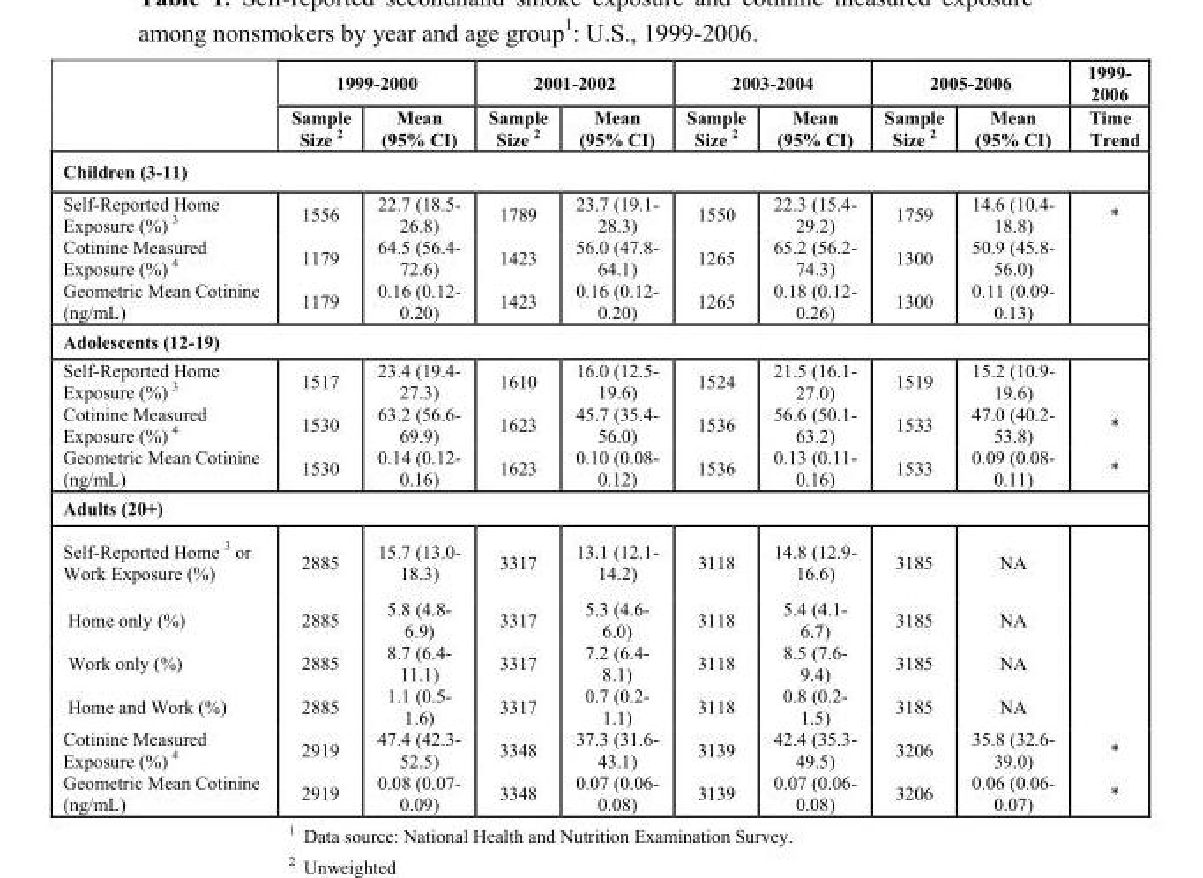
<table><thead><tr><td rowspan="2"></td><td colspan="2">1999-2000</td><td colspan="2">2001-2002</td><td colspan="2">2003-2004</td><td colspan="2">2005-2006</td><td rowspan="2">1999- 2006 Time Trend</td></tr><tr><td>Sample Size <sup>2</sup></td><td>Mean (95% CI)</td><td>Sample Size <sup>2</sup></td><td>Mean (95% CI)</td><td>Sample Size <sup>2</sup></td><td>Mean (95% CI)</td><td>Sample Size <sup>2</sup></td><td>Mean (95% CI)</td></tr></thead><tbody><tr><td colspan="10">Children (3-11)</td></tr><tr><td>Self-Reported Home Exposure (%) 3</td><td>1556</td><td>22.7 (18.5- 26.8)</td><td>1789</td><td>23.7 (19.1- 28.3)</td><td>1550</td><td>22.3 (15.4- 29.2)</td><td>1759</td><td>14.6 (10.4- 18.8)</td><td>*</td></tr><tr><td>Cotinine Measured Exposure (%) 4</td><td>1179</td><td>64.5 (56.4- 72.6)</td><td>1423</td><td>56.0 (47.8- 64.1)</td><td>1265</td><td>65.2 (56.2- 74.3)</td><td>1300</td><td>50.9 (45.8- 56.0)</td><td></td></tr><tr><td>Geometric Mean Cotinine (ng/mL)</td><td>1179</td><td>0.16 (0.12- 0.20)</td><td>1423</td><td>0.16 (0.12- 0.20)</td><td>1265</td><td>0.18 (0.12- 0.26)</td><td>1300</td><td>0.11 (0.09- 0.13)</td><td></td></tr><tr><td colspan="10">Adolescents (12-19)</td></tr><tr><td>Self-Reported Home Exposure (%) 3</td><td>1517</td><td>23.4 (19.4- 27.3)</td><td>1610</td><td>16.0 (12.5- 19.6)</td><td>1524</td><td>21.5 (16.1- 27.0)</td><td>1519</td><td>15.2 (10.9- 19.6)</td><td></td></tr><tr><td>Cotinine Measured Exposure (%) 4</td><td>1530</td><td>63.2 (56.6- 69.9)</td><td>1623</td><td>45.7 (35.4- 56.0)</td><td>1536</td><td>56.6 (50.1- 63.2)</td><td>1533</td><td>47.0 (40.2- 53.8)</td><td>*</td></tr><tr><td>Geometric Mean Cotinine (ng/mL)</td><td>1530</td><td>0.14 (0.12- 0.16)</td><td>1623</td><td>0.10 (0.08- 0.12)</td><td>1536</td><td>0.13 (0.11- 0.16)</td><td>1533</td><td>0.09 (0.08- 0.11)</td><td>*</td></tr><tr><td colspan="10">Adults (20+)</td></tr><tr><td>Self-Reported Home 3 or Work Exposure (%)</td><td>2885</td><td>15.7 (13.0- 18.3)</td><td>3317</td><td>13.1 (12.1- 14.2)</td><td>3118</td><td>14.8 (12.9- 16.6)</td><td>3185</td><td>NA</td><td></td></tr><tr><td>Home only (%)</td><td>2885</td><td>5.8 (4.8- 6.9)</td><td>3317</td><td>5.3 (4.6- 6.0)</td><td>3118</td><td>5.4 (4.1- 6.7)</td><td>3185</td><td>NA</td><td></td></tr><tr><td>Work only (%)</td><td>2885</td><td>8.7 (6.4- 11.1)</td><td>3317</td><td>7.2 (6.4- 8.1)</td><td>3118</td><td>8.5 (7.6- 9.4)</td><td>3185</td><td>NA</td><td></td></tr><tr><td>Home and Work (%)</td><td>2885</td><td>1.1 (0.5- 1.6)</td><td>3317</td><td>0.7 (0.2- 1.1)</td><td>3118</td><td>0.8 (0.2- 1.5)</td><td>3185</td><td>NA</td><td></td></tr><tr><td>Cotinine Measured Exposure (%) 4</td><td>2919</td><td>47.4 (42.3- 52.5)</td><td>3348</td><td>37.3 (31.6- 43.1)</td><td>3139</td><td>42.4 (35.3- 49.5)</td><td>3206</td><td>35.8 (32.6- 39.0)</td><td>*</td></tr><tr><td>Geometric Mean Cotinine (ng/mL)</td><td>2919</td><td>0.08 (0.07- 0.09)</td><td>3348</td><td>0.07 (0.06- 0.08)</td><td>3139</td><td>0.07 (0.06- 0.08)</td><td>3206</td><td>0.06 (0.06- 0.07)</td><td>*</td></tr></tbody></table>